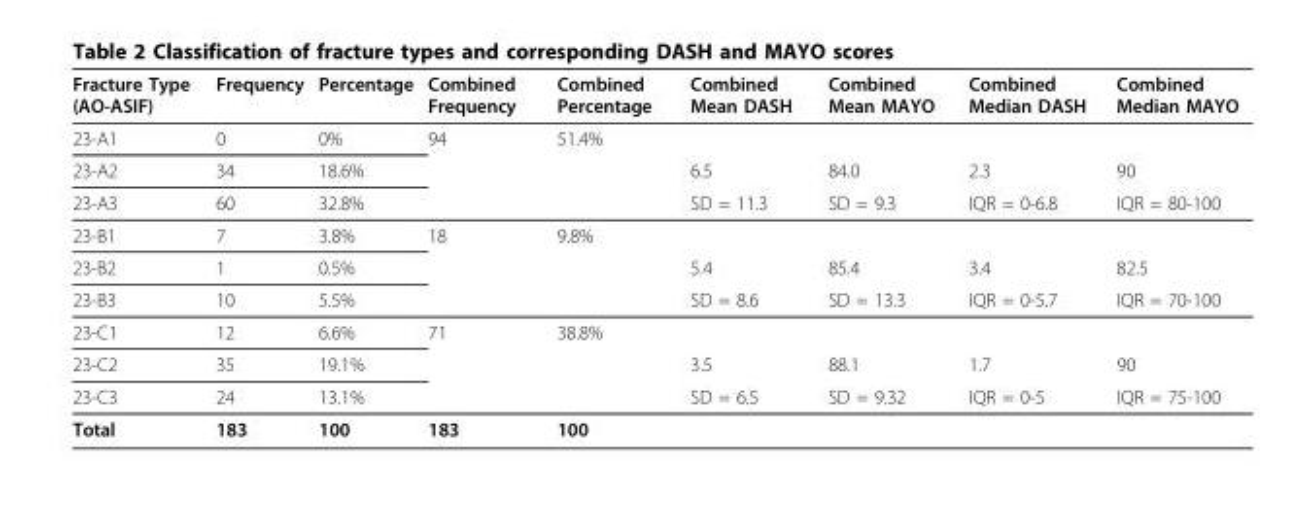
<table><thead><tr><td>Fracture Type (AO-ASIF)</td><td>Frequency</td><td>Percentage</td><td>Combined Frequency</td><td>Combined Percentage</td><td>Combined Mean DASH</td><td>Combined Mean MAYO</td><td>Combined Median DASH</td><td>Combined Median MAYO</td></tr></thead><tbody><tr><td>23-A1</td><td>0</td><td>0%</td><td>94</td><td>51.4%</td><td></td><td></td><td></td><td></td></tr><tr><td>23-A2</td><td>34</td><td>18.6%</td><td></td><td></td><td>6.5</td><td>84.0</td><td>2.3</td><td>90</td></tr><tr><td>23-A3</td><td>60</td><td>32.8%</td><td></td><td></td><td>SD = 11.3</td><td>SD = 9.3</td><td>IQR = 0-6.8</td><td>IQR = 80-100</td></tr><tr><td>23-B1</td><td>7</td><td>3.8%</td><td>18</td><td>9.8%</td><td></td><td></td><td></td><td></td></tr><tr><td>23-B2</td><td>1</td><td>0.5%</td><td></td><td></td><td>5.4</td><td>85.4</td><td>3.4</td><td>82.5</td></tr><tr><td>23-B3</td><td>10</td><td>5.5%</td><td></td><td></td><td>SD = 8.6</td><td>SD = 13.3</td><td>IQR = 0-5.7</td><td>IQR = 70-100</td></tr><tr><td>23-C1</td><td>12</td><td>6.6%</td><td>71</td><td>38.8%</td><td></td><td></td><td></td><td></td></tr><tr><td>23-C2</td><td>35</td><td>19.1%</td><td></td><td></td><td>3.5</td><td>88.1</td><td>1.7</td><td>90</td></tr><tr><td>23-C3</td><td>24</td><td>13.1%</td><td></td><td></td><td>SD = 6.5</td><td>SD = 9.32</td><td>IQR = 0-5</td><td>IQR = 75-100</td></tr><tr><td>Total</td><td>183</td><td>100</td><td>183</td><td>100</td><td></td><td></td><td></td><td></td></tr></tbody></table>